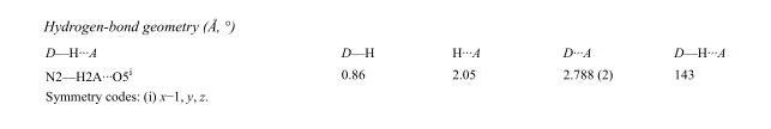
<table><tbody><tr><td>D—H···A</td><td>D—H</td><td>H···A</td><td>D···A</td><td>D—H···A</td></tr><tr><td>N2—H2A···O5<sup>i</sup></td><td>0.86</td><td>2.05</td><td>2.788 (2)</td><td>143</td></tr></tbody></table>